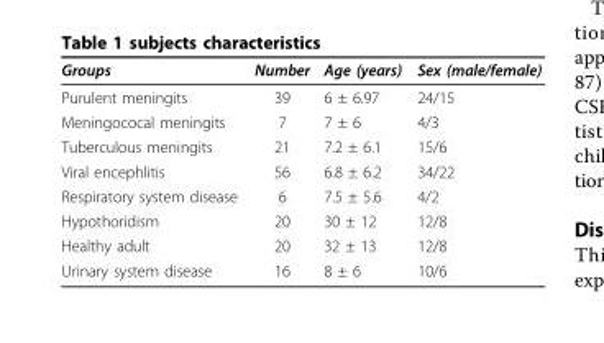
<table><thead><tr><td>Groups</td><td>Number</td><td>Age (years)</td><td>Sex (male/female)</td></tr></thead><tbody><tr><td>Purulent meningits</td><td>39</td><td>6 ± 6.97</td><td>24/15</td></tr><tr><td>Meningococal meningits</td><td>7</td><td>7 ± 6</td><td>4/3</td></tr><tr><td>Tuberculous meningits</td><td>21</td><td>7.2 ± 6.1</td><td>15/6</td></tr><tr><td>Viral encephlitis</td><td>56</td><td>6.8 ± 6.2</td><td>34/22</td></tr><tr><td>Respiratory system disease</td><td>6</td><td>7.5 ± 5.6</td><td>4/2</td></tr><tr><td>Hypothoridism</td><td>20</td><td>30 ± 12</td><td>12/8</td></tr><tr><td>Healthy adult</td><td>20</td><td>32 ± 13</td><td>12/8</td></tr><tr><td>Urinary system disease</td><td>16</td><td>8 ± 6</td><td>10/6</td></tr></tbody></table>